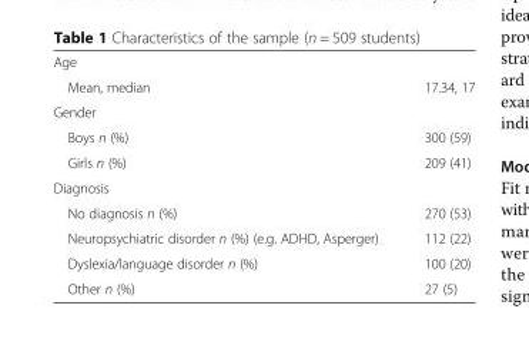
<table><tbody><tr><td colspan="2">Age</td></tr><tr><td>Mean, median</td><td>17.34, 17</td></tr><tr><td colspan="2">Gender</td></tr><tr><td>Boys n (%)</td><td>300 (59)</td></tr><tr><td>Girls n (%)</td><td>209 (41)</td></tr><tr><td colspan="2">Diagnosis</td></tr><tr><td>No diagnosis n (%)</td><td>270 (53)</td></tr><tr><td>Neuropsychiatric disorder n (%) (e.g. ADHD, Asperger)</td><td>112 (22)</td></tr><tr><td>Dyslexia/language disorder n (%)</td><td>100 (20)</td></tr><tr><td>Other n (%)</td><td>27 (5)</td></tr></tbody></table>